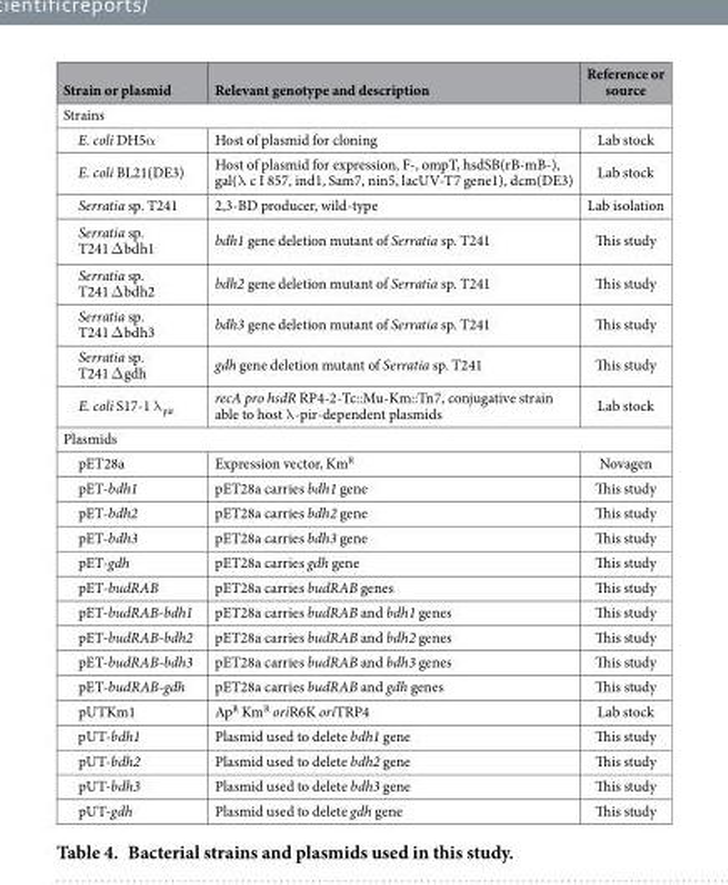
<table><thead><tr><td>Strain or plasmid</td><td>Relevant genotype and description</td><td>Reference or source</td></tr></thead><tbody><tr><td colspan="3">Strains</td></tr><tr><td>E. coli DH5α</td><td>Host of plasmid for cloning</td><td>Lab stock</td></tr><tr><td>E. coli BL21(DE3)</td><td>Host of plasmid for expression, F-, ompT, hsdSB(rB-mB-), gal(λ c I 857, ind1, Sam7, nin5, lacUV-T7 gene1), dcm(DE3)</td><td>Lab stock</td></tr><tr><td>Serratia sp. T241</td><td>2,3-BD producer, wild-type</td><td>Lab isolation</td></tr><tr><td>Serratia sp. T241 Δ bdh1</td><td>bdh1 gene deletion mutant of Serratia sp. T241</td><td>This study</td></tr><tr><td>Serratia sp. T241 Δ bdh2</td><td>bdh2 gene deletion mutant of Serratia sp. T241</td><td>This study</td></tr><tr><td>Serratia sp. T241 Δ bdh3</td><td>bdh3 gene deletion mutant of Serratia sp. T241</td><td>This study</td></tr><tr><td>Serratia sp. T241 Δ gdh</td><td>gdh gene deletion mutant of Serratia sp. T241</td><td>This study</td></tr><tr><td>E. coli S17-1 λ <sub>pir</sub></td><td>recA pro hsdR RP4-2-Tc::Mu-Km::Tn7, conjugative strain able to host λ -pir-dependent plasmids</td><td>Lab stock</td></tr><tr><td colspan="3">Plasmids</td></tr><tr><td>pET28a</td><td>Expression vector, Km<sup>R</sup></td><td>Novagen</td></tr><tr><td>pET-bdh1</td><td>pET28a carries bdh1 gene</td><td>This study</td></tr><tr><td>pET-bdh2</td><td>pET28a carries bdh2 gene</td><td>This study</td></tr><tr><td>pET-bdh3</td><td>pET28a carries bdh3 gene</td><td>This study</td></tr><tr><td>pET-gdh</td><td>pET28a carries gdh gene</td><td>This study</td></tr><tr><td>pET-budRAB</td><td>pET28a carries budRAB genes</td><td>This study</td></tr><tr><td>pET-budRAB-bdh1</td><td>pET28a carries budRAB and bdh1 genes</td><td>This study</td></tr><tr><td>pET-budRAB-bdh2</td><td>pET28a carries budRAB and bdh2 genes</td><td>This study</td></tr><tr><td>pET-budRAB-bdh3</td><td>pET28a carries budRAB and bdh3 genes</td><td>This study</td></tr><tr><td>pET-budRAB-gdh</td><td>pET28a carries budRAB and gdh genes</td><td>This study</td></tr><tr><td>pUTKm1</td><td>Ap<sup>R</sup> Km<sup>R</sup> oriR6K oriTRP4</td><td>Lab stock</td></tr><tr><td>pUT-bdh1</td><td>Plasmid used to delete bdh1 gene</td><td>This study</td></tr><tr><td>pUT-bdh2</td><td>Plasmid used to delete bdh2 gene</td><td>This study</td></tr><tr><td>pUT-bdh3</td><td>Plasmid used to delete bdh3 gene</td><td>This study</td></tr><tr><td>pUT-gdh</td><td>Plasmid used to delete gdh gene</td><td>This study</td></tr></tbody></table>